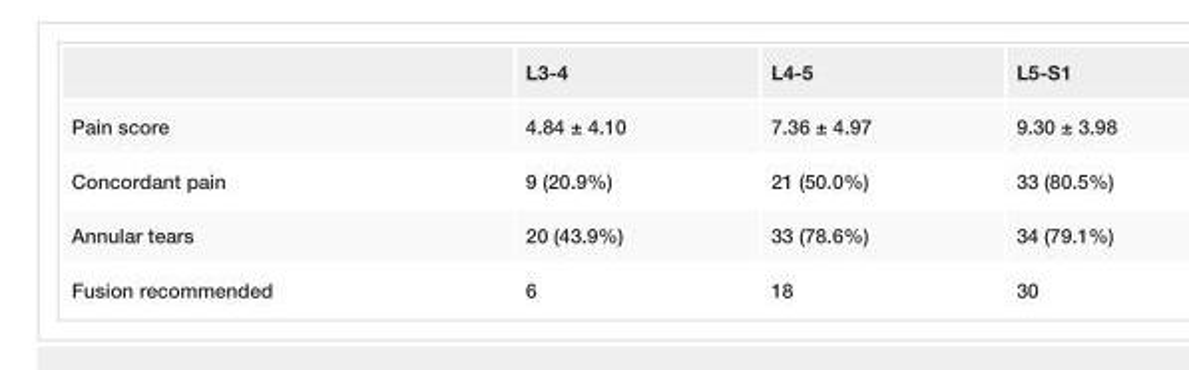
<table><thead><tr><td></td><td>L3-4</td><td>L4-5</td><td>L5-S1</td></tr></thead><tbody><tr><td>Pain score</td><td>4.84 ± 4.10</td><td>7.36 ± 4.97</td><td>9.30 ± 3.98</td></tr><tr><td>Concordant pain</td><td>9 (20.9%)</td><td>21 (50.0%)</td><td>33 (80.5%)</td></tr><tr><td>Annular tears</td><td>20 (43.9%)</td><td>33 (78.6%)</td><td>34 (79.1%)</td></tr><tr><td>Fusion recommended</td><td>6</td><td>18</td><td>30</td></tr></tbody></table>